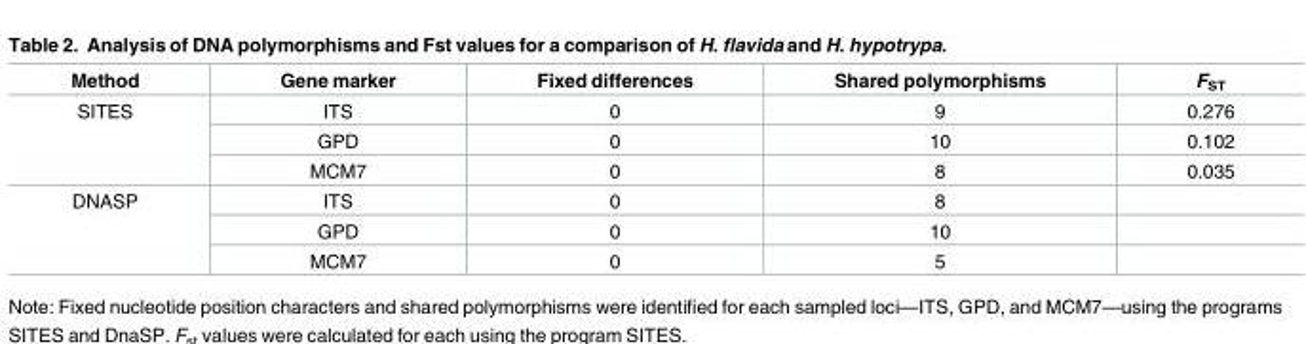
<table><thead><tr><td>Method</td><td>Gene marker</td><td>Fixed differences</td><td>Shared polymorphisms</td><td>F<sub>ST</sub></td></tr></thead><tbody><tr><td rowspan="3">SITES</td><td>ITS</td><td>0</td><td>9</td><td>0.276</td></tr><tr><td>GPD</td><td>0</td><td>10</td><td>0.102</td></tr><tr><td>MCM7</td><td>0</td><td>8</td><td>0.035</td></tr><tr><td rowspan="3">DNASP</td><td>ITS</td><td>0</td><td>8</td><td></td></tr><tr><td>GPD</td><td>0</td><td>10</td><td></td></tr><tr><td>MCM7</td><td>0</td><td>5</td><td></td></tr></tbody></table>